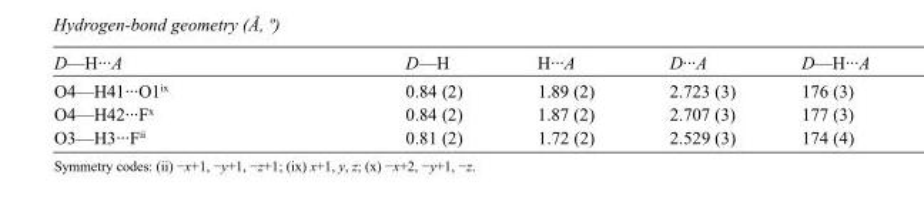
<table><tbody><tr><td>D—H···A</td><td>D—H</td><td>H···A</td><td>D···A</td><td>D—H···A</td></tr><tr><td>O4—H41···O1<sup>ix</sup></td><td>0.84 (2)</td><td>1.89 (2)</td><td>2.723 (3)</td><td>176 (3)</td></tr><tr><td>O4—H42···F<sup>x</sup></td><td>0.84 (2)</td><td>1.87 (2)</td><td>2.707 (3)</td><td>177 (3)</td></tr><tr><td>O3—H3···F<sup>ii</sup></td><td>0.81 (2)</td><td>1.72 (2)</td><td>2.529 (3)</td><td>174 (4)</td></tr></tbody></table>